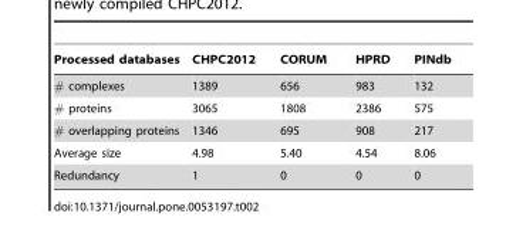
<table><thead><tr><td>Processed databases</td><td>CHPC2012</td><td>CORUM</td><td>HPRD</td><td>PINdb</td></tr></thead><tbody><tr><td># complexes</td><td>1389</td><td>656</td><td>983</td><td>132</td></tr><tr><td># proteins</td><td>3065</td><td>1808</td><td>2386</td><td>575</td></tr><tr><td># overlapping proteins</td><td>1346</td><td>695</td><td>908</td><td>217</td></tr><tr><td>Average size</td><td>4.98</td><td>5.40</td><td>4.54</td><td>8.06</td></tr><tr><td>Redundancy</td><td>1</td><td>0</td><td>0</td><td>0</td></tr></tbody></table>